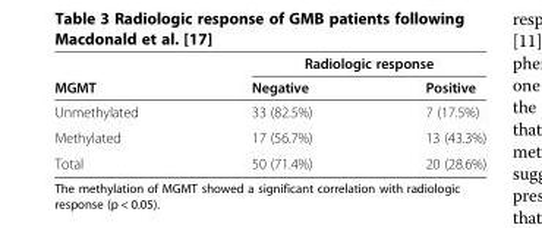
<table><thead><tr><td rowspan="2">MGMT</td><td colspan="2">Radiologic response</td></tr><tr><td>Negative</td><td>Positive</td></tr></thead><tbody><tr><td>Unmethylated</td><td>33 (82.5%)</td><td>7 (17.5%)</td></tr><tr><td>Methylated</td><td>17 (56.7%)</td><td>13 (43.3%)</td></tr><tr><td>Total</td><td>50 (71.4%)</td><td>20 (28.6%)</td></tr></tbody></table>